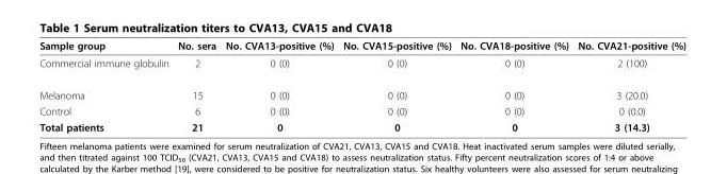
<table><thead><tr><td>Sample group</td><td>No. sera</td><td>No. CVA13-positive (%)</td><td>No. CVA15-positive (%)</td><td>No. CVA18-positive (%)</td><td>No. CVA21-positive (%)</td></tr></thead><tbody><tr><td>Commercial immune globulin</td><td>2</td><td>0 (0)</td><td>0 (0)</td><td>0 (0)</td><td>2 (100)</td></tr><tr><td>Melanoma</td><td>15</td><td>0 (0)</td><td>0 (0)</td><td>0 (0)</td><td>3 (20.0)</td></tr><tr><td>Control</td><td>6</td><td>0 (0)</td><td>0 (0)</td><td>0 (0)</td><td>0 (0.0)</td></tr><tr><td>Total patients</td><td>21</td><td>0</td><td>0</td><td>0</td><td>3 (14.3)</td></tr></tbody></table>